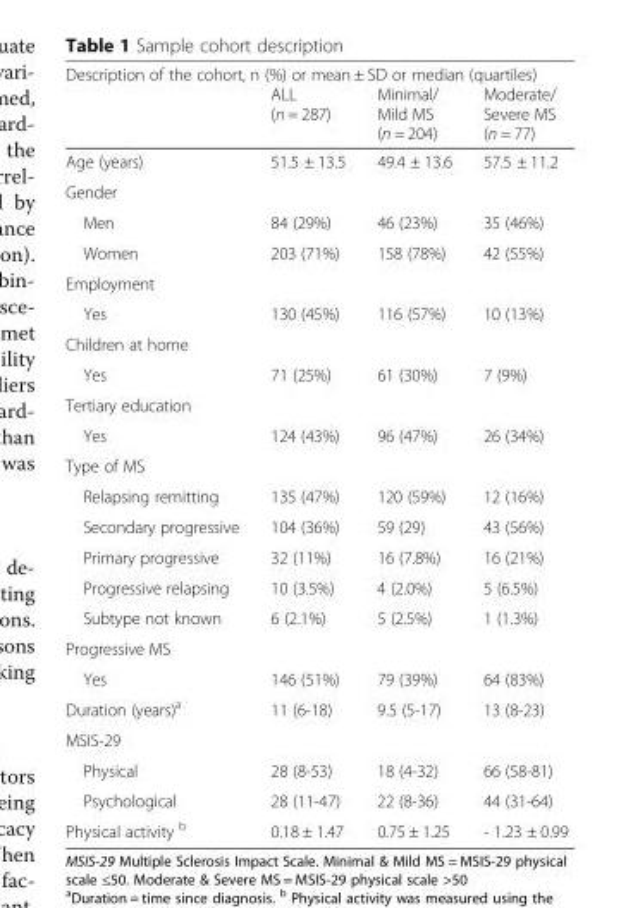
<table><thead><tr><td colspan="4">Description of the cohort, n (%) or mean ± SD or median (quartiles)</td></tr><tr><td></td><td>ALL (n = 287)</td><td>Minimal/ Mild MS (n = 204)</td><td>Moderate/ Severe MS (n = 77)</td></tr></thead><tbody><tr><td>Age (years)</td><td>51.5 ± 13.5</td><td>49.4 ± 13.6</td><td>57.5 ± 11.2</td></tr><tr><td colspan="4">Gender</td></tr><tr><td>Men</td><td>84 (29%)</td><td>46 (23%)</td><td>35 (46%)</td></tr><tr><td>Women</td><td>203 (71%)</td><td>158 (78%)</td><td>42 (55%)</td></tr><tr><td colspan="4">Employment</td></tr><tr><td>Yes</td><td>130 (45%)</td><td>116 (57%)</td><td>10 (13%)</td></tr><tr><td colspan="4">Children at home</td></tr><tr><td>Yes</td><td>71 (25%)</td><td>61 (30%)</td><td>7 (9%)</td></tr><tr><td colspan="4">Tertiary education</td></tr><tr><td>Yes</td><td>124 (43%)</td><td>96 (47%)</td><td>26 (34%)</td></tr><tr><td colspan="4">Type of MS</td></tr><tr><td>Relapsing remitting</td><td>135 (47%)</td><td>120 (59%)</td><td>12 (16%)</td></tr><tr><td>Secondary progressive</td><td>104 (36%)</td><td>59 (29)</td><td>43 (56%)</td></tr><tr><td>Primary progressive</td><td>32 (11%)</td><td>16 (7.8%)</td><td>16 (21%)</td></tr><tr><td>Progressive relapsing</td><td>10 (3.5%)</td><td>4 (2.0%)</td><td>5 (6.5%)</td></tr><tr><td>Subtype not known</td><td>6 (2.1%)</td><td>5 (2.5%)</td><td>1 (1.3%)</td></tr><tr><td colspan="4">Progressive MS</td></tr><tr><td>Yes</td><td>146 (51%)</td><td>79 (39%)</td><td>64 (83%)</td></tr><tr><td>Duration (years)<sup>a</sup></td><td>11 (6-18)</td><td>9.5 (5-17)</td><td>13 (8-23)</td></tr><tr><td colspan="4">MSIS-29</td></tr><tr><td>Physical</td><td>28 (8-53)</td><td>18 (4-32)</td><td>66 (58-81)</td></tr><tr><td>Psychological</td><td>28 (11-47)</td><td>22 (8-36)</td><td>44 (31-64)</td></tr><tr><td>Physical activity <sup>b</sup></td><td>0.18 ± 1.47</td><td>0.75 ± 1.25</td><td>- 1.23 ± 0.99</td></tr></tbody></table>